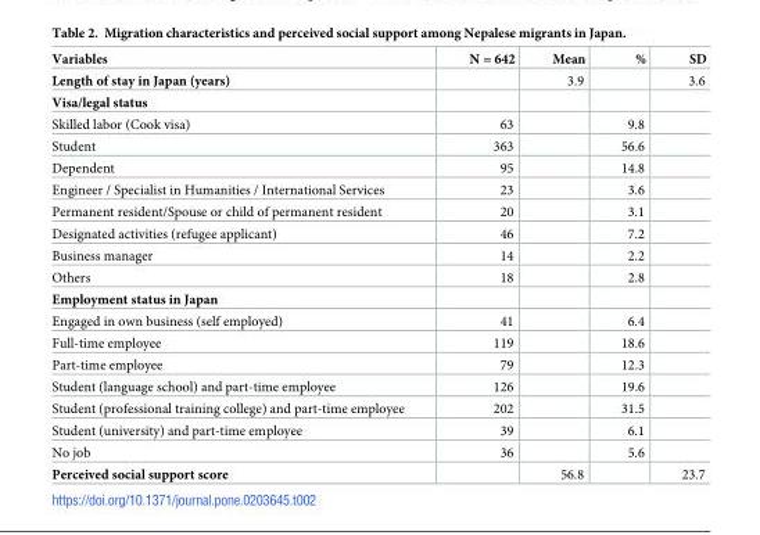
<table><thead><tr><td>Variables</td><td>N = 642</td><td>Mean</td><td>%</td><td>SD</td></tr></thead><tbody><tr><td>Length of stay in Japan (years)</td><td></td><td>3.9</td><td></td><td>3.6</td></tr><tr><td colspan="5">Visa/legal status</td></tr><tr><td>Skilled labor (Cook visa)</td><td>63</td><td></td><td>9.8</td><td></td></tr><tr><td>Student</td><td>363</td><td></td><td>56.6</td><td></td></tr><tr><td>Dependent</td><td>95</td><td></td><td>14.8</td><td></td></tr><tr><td>Engineer / Specialist in Humanities / International Services</td><td>23</td><td></td><td>3.6</td><td></td></tr><tr><td>Permanent resident/Spouse or child of permanent resident</td><td>20</td><td></td><td>3.1</td><td></td></tr><tr><td>Designated activities (refugee applicant)</td><td>46</td><td></td><td>7.2</td><td></td></tr><tr><td>Business manager</td><td>14</td><td></td><td>2.2</td><td></td></tr><tr><td>Others</td><td>18</td><td></td><td>2.8</td><td></td></tr><tr><td colspan="5">Employment status in Japan</td></tr><tr><td>Engaged in own business (self employed)</td><td>41</td><td></td><td>6.4</td><td></td></tr><tr><td>Full-time employee</td><td>119</td><td></td><td>18.6</td><td></td></tr><tr><td>Part-time employee</td><td>79</td><td></td><td>12.3</td><td></td></tr><tr><td>Student (language school) and part-time employee</td><td>126</td><td></td><td>19.6</td><td></td></tr><tr><td>Student (professional training college) and part-time employee</td><td>202</td><td></td><td>31.5</td><td></td></tr><tr><td>Student (university) and part-time employee</td><td>39</td><td></td><td>6.1</td><td></td></tr><tr><td>No job</td><td>36</td><td></td><td>5.6</td><td></td></tr><tr><td>Perceived social support score</td><td></td><td>56.8</td><td></td><td>23.7</td></tr></tbody></table>